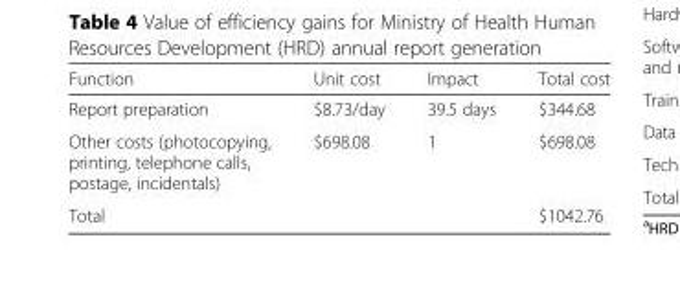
<table><thead><tr><td>Function</td><td>Unit cost</td><td>Impact</td><td>Total cost</td></tr></thead><tbody><tr><td>Report preparation</td><td>$8.73/day</td><td>39.5 days</td><td>$344.68</td></tr><tr><td>Other costs (photocopying, printing, telephone calls, postage, incidentals)</td><td>$698.08</td><td>1</td><td>$698.08</td></tr><tr><td colspan="3">Total</td><td>$1042.76</td></tr></tbody></table>